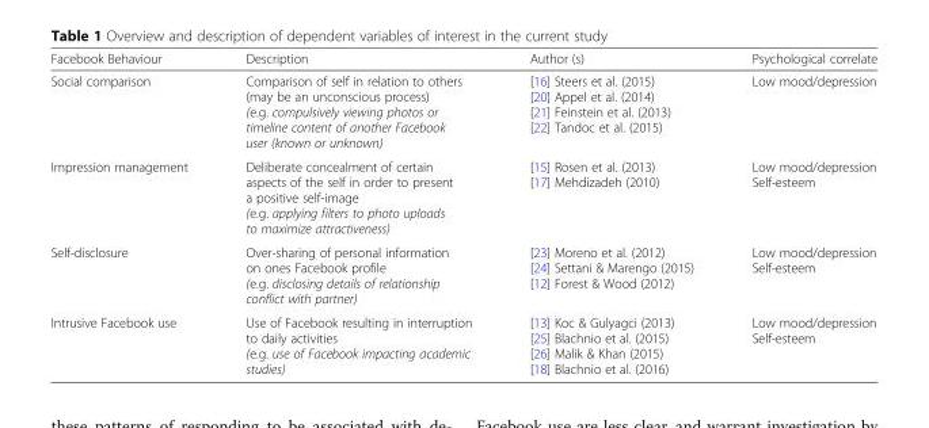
<table><thead><tr><td>Facebook Behaviour</td><td>Description</td><td>Author (s)</td><td>Psychological correlate</td></tr></thead><tbody><tr><td>Social comparison</td><td>Comparison of self in relation to others (may be an unconscious process) (e.g. compulsively viewing photos or timeline content of another Facebook user (known or unknown)</td><td>[16] Steers et al. (2015) [20] Appel et al. (2014) [21] Feinstein et al. (2013) [22] Tandoc et al. (2015)</td><td>Low mood/depression</td></tr><tr><td>Impression management</td><td>Deliberate concealment of certain aspects of the self in order to present a positive self-image (e.g. applying filters to photo uploads to maximize attractiveness)</td><td>[15] Rosen et al. (2013) [17] Mehdizadeh (2010)</td><td>Low mood/depression Self-esteem</td></tr><tr><td>Self-disclosure</td><td>Over-sharing of personal information on ones Facebook profile (e.g. disclosing details of relationship conflict with partner)</td><td>[23] Moreno et al. (2012) [24] Settani &amp; Marengo (2015) [12] Forest &amp; Wood (2012)</td><td>Low mood/depression Self-esteem</td></tr><tr><td>Intrusive Facebook use</td><td>Use of Facebook resulting in interruption to daily activities (e.g. use of Facebook impacting academic studies)</td><td>[13] Koc &amp; Gulyagci (2013) [25] Blachnio et al. (2015) [26] Malik &amp; Khan (2015) [18] Blachnio et al. (2016)</td><td>Low mood/depression Self-esteem</td></tr></tbody></table>